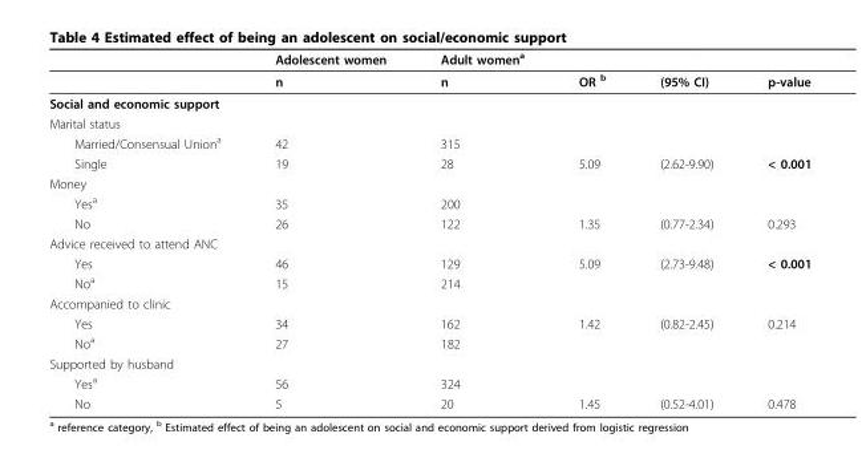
<table><thead><tr><td></td><td>Adolescent women</td><td>Adult women<sup>a</sup></td><td></td><td></td><td></td></tr></thead><tbody><tr><td></td><td>n</td><td>n</td><td>OR <sup>b</sup></td><td>(95% CI)</td><td>p-value</td></tr><tr><td colspan="6">Social and economic support</td></tr><tr><td colspan="6">Marital status</td></tr><tr><td>Married/Consensual Union<sup>a</sup></td><td>42</td><td>315</td><td></td><td></td><td></td></tr><tr><td>Single</td><td>19</td><td>28</td><td>5.09</td><td>(2.62-9.90)</td><td>&lt; 0.001</td></tr><tr><td colspan="6">Money</td></tr><tr><td>Yes<sup>a</sup></td><td>35</td><td>200</td><td></td><td></td><td></td></tr><tr><td>No</td><td>26</td><td>122</td><td>1.35</td><td>(0.77-2.34)</td><td>0.293</td></tr><tr><td colspan="6">Advice received to attend ANC</td></tr><tr><td>Yes</td><td>46</td><td>129</td><td>5.09</td><td>(2.73-9.48)</td><td>&lt; 0.001</td></tr><tr><td>No<sup>a</sup></td><td>15</td><td>214</td><td></td><td></td><td></td></tr><tr><td colspan="6">Accompanied to clinic</td></tr><tr><td>Yes</td><td>34</td><td>162</td><td>1.42</td><td>(0.82-2.45)</td><td>0.214</td></tr><tr><td>No<sup>a</sup></td><td>27</td><td>182</td><td></td><td></td><td></td></tr><tr><td colspan="6">Supported by husband</td></tr><tr><td>Yes<sup>a</sup></td><td>56</td><td>324</td><td></td><td></td><td></td></tr><tr><td>No</td><td>5</td><td>20</td><td>1.45</td><td>(0.52-4.01)</td><td>0.478</td></tr></tbody></table>